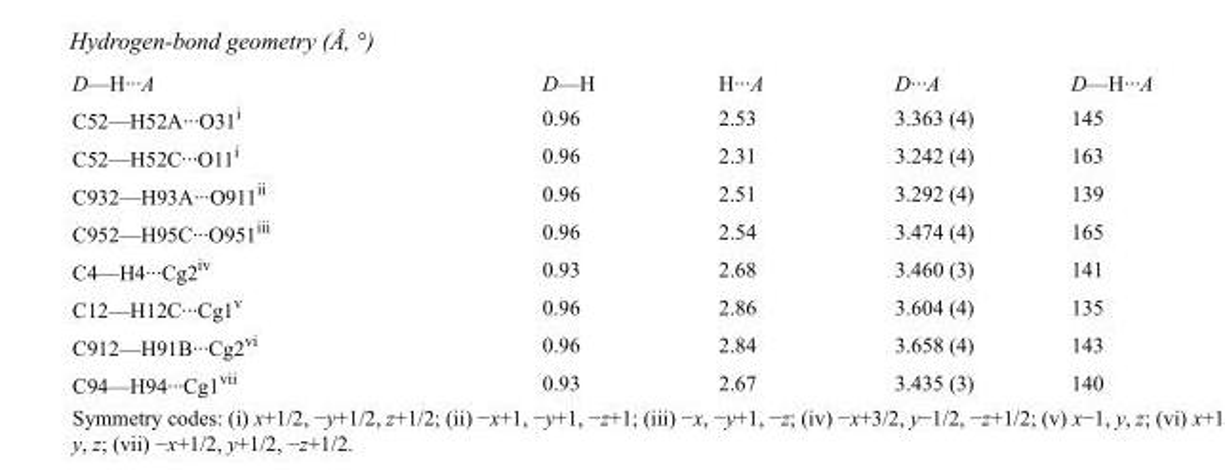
<table><tbody><tr><td>D—H···A</td><td>D—H</td><td>H···A</td><td>D···A</td><td>D—H···A</td></tr><tr><td>C52—H52A···O31<sup>i</sup></td><td>0.96</td><td>2.53</td><td>3.363 (4)</td><td>145</td></tr><tr><td>C52—H52C···O11<sup>i</sup></td><td>0.96</td><td>2.31</td><td>3.242 (4)</td><td>163</td></tr><tr><td>C932—H93A···O911<sup>ii</sup></td><td>0.96</td><td>2.51</td><td>3.292 (4)</td><td>139</td></tr><tr><td>C952—H95C···O951<sup>iii</sup></td><td>0.96</td><td>2.54</td><td>3.474 (4)</td><td>165</td></tr><tr><td>C4—H4···Cg2<sup>iv</sup></td><td>0.93</td><td>2.68</td><td>3.460 (3)</td><td>141</td></tr><tr><td>C12—H12C···Cg1<sup>v</sup></td><td>0.96</td><td>2.86</td><td>3.604 (4)</td><td>135</td></tr><tr><td>C912—H91B···Cg2<sup>vi</sup></td><td>0.96</td><td>2.84</td><td>3.658 (4)</td><td>143</td></tr><tr><td>C94—H94···Cg1<sup>vii</sup></td><td>0.93</td><td>2.67</td><td>3.435 (3)</td><td>140</td></tr></tbody></table>